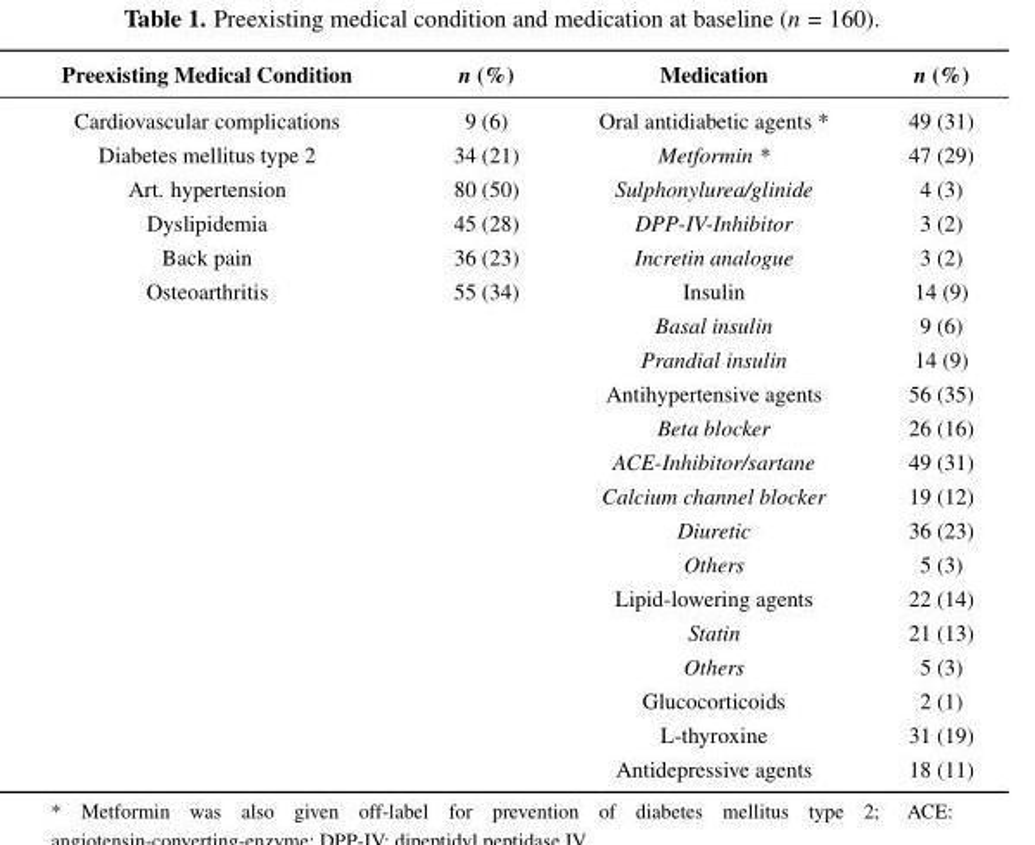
<table><thead><tr><td>Preexisting Medical Condition</td><td>n (%)</td><td>Medication</td><td>n (%)</td></tr></thead><tbody><tr><td>Cardiovascular complications</td><td>9 (6)</td><td>Oral antidiabetic agents *</td><td>49 (31)</td></tr><tr><td>Diabetes mellitus type 2</td><td>34 (21)</td><td>Metformin *</td><td>47 (29)</td></tr><tr><td>Art. hypertension</td><td>80 (50)</td><td>Sulphonylurea/glinide</td><td>4 (3)</td></tr><tr><td>Dyslipidemia</td><td>45 (28)</td><td>DPP-IV-Inhibitor</td><td>3 (2)</td></tr><tr><td>Back pain</td><td>36 (23)</td><td>Incretin analogue</td><td>3 (2)</td></tr><tr><td rowspan="15">Osteoarthritis</td><td>55 (34)</td><td>Insulin</td><td>14 (9)</td></tr><tr><td></td><td>Basal insulin</td><td>9 (6)</td></tr><tr><td></td><td>Prandial insulin</td><td>14 (9)</td></tr><tr><td></td><td>Antihypertensive agents</td><td>56 (35)</td></tr><tr><td></td><td>Beta blocker</td><td>26 (16)</td></tr><tr><td></td><td>ACE-Inhibitor/sartane</td><td>49 (31)</td></tr><tr><td></td><td>Calcium channel blocker</td><td>19 (12)</td></tr><tr><td></td><td>Diuretic</td><td>36 (23)</td></tr><tr><td></td><td>Others</td><td>5 (3)</td></tr><tr><td></td><td>Lipid-lowering agents</td><td>22 (14)</td></tr><tr><td></td><td>Statin</td><td>21 (13)</td></tr><tr><td></td><td>Others</td><td>5 (3)</td></tr><tr><td></td><td>Glucocorticoids</td><td>2 (1)</td></tr><tr><td></td><td>L-thyroxine</td><td>31 (19)</td></tr><tr><td></td><td>Antidepressive agents</td><td>18 (11)</td></tr></tbody></table>